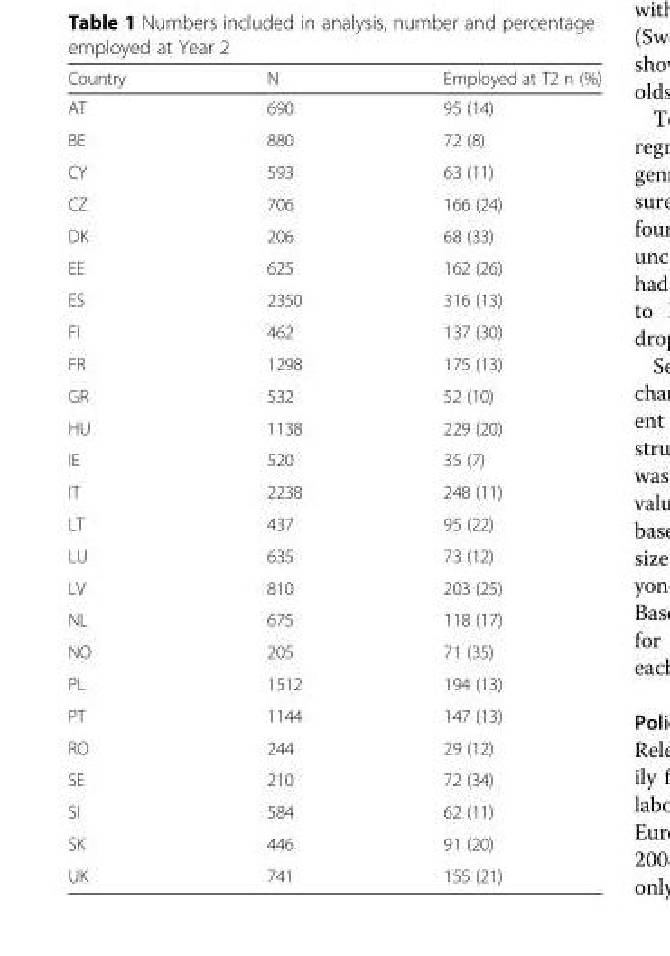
<table><thead><tr><td>Country</td><td>N</td><td>Employed at T2 n (%)</td></tr></thead><tbody><tr><td>AT</td><td>690</td><td>95 (14)</td></tr><tr><td>BE</td><td>880</td><td>72 (8)</td></tr><tr><td>CY</td><td>593</td><td>63 (11)</td></tr><tr><td>CZ</td><td>706</td><td>166 (24)</td></tr><tr><td>DK</td><td>206</td><td>68 (33)</td></tr><tr><td>EE</td><td>625</td><td>162 (26)</td></tr><tr><td>ES</td><td>2350</td><td>316 (13)</td></tr><tr><td>FI</td><td>462</td><td>137 (30)</td></tr><tr><td>FR</td><td>1298</td><td>175 (13)</td></tr><tr><td>GR</td><td>532</td><td>52 (10)</td></tr><tr><td>HU</td><td>1138</td><td>229 (20)</td></tr><tr><td>IE</td><td>520</td><td>35 (7)</td></tr><tr><td>IT</td><td>2238</td><td>248 (11)</td></tr><tr><td>LT</td><td>437</td><td>95 (22)</td></tr><tr><td>LU</td><td>635</td><td>73 (12)</td></tr><tr><td>LV</td><td>810</td><td>203 (25)</td></tr><tr><td>NL</td><td>675</td><td>118 (17)</td></tr><tr><td>NO</td><td>205</td><td>71 (35)</td></tr><tr><td>PL</td><td>1512</td><td>194 (13)</td></tr><tr><td>PT</td><td>1144</td><td>147 (13)</td></tr><tr><td>RO</td><td>244</td><td>29 (12)</td></tr><tr><td>SE</td><td>210</td><td>72 (34)</td></tr><tr><td>SI</td><td>584</td><td>62 (11)</td></tr><tr><td>SK</td><td>446</td><td>91 (20)</td></tr><tr><td>UK</td><td>741</td><td>155 (21)</td></tr></tbody></table>